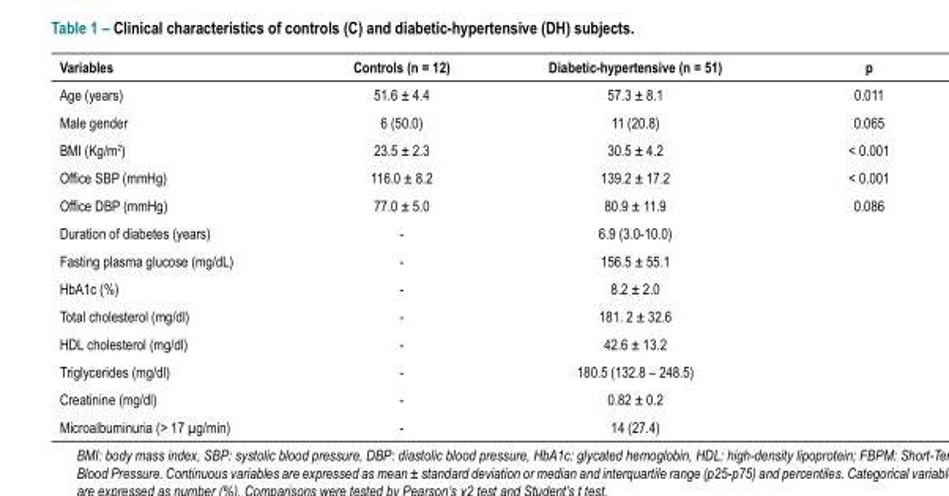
<table><thead><tr><td>Variables</td><td>Controls (n = 12)</td><td>Diabetic-hypertensive (n = 51)</td><td>p</td></tr></thead><tbody><tr><td>Age (years)</td><td>51.6 ± 4.4</td><td>57.3 ± 8.1</td><td>0.011</td></tr><tr><td>Male gender</td><td>6 (50.0)</td><td>11 (20.8)</td><td>0.065</td></tr><tr><td>BMI (Kg/m<sup>2</sup>)</td><td>23.5 ± 2.3</td><td>30.5 ± 4.2</td><td>&lt; 0.001</td></tr><tr><td>Office SBP (mmHg)</td><td>116.0 ± 8.2</td><td>139.2 ± 17.2</td><td>&lt; 0.001</td></tr><tr><td>Office DBP (mmHg)</td><td>77.0 ± 5.0</td><td>80.9 ± 11.9</td><td>0.086</td></tr><tr><td>Duration of diabetes (years)</td><td>-</td><td>6.9 (3.0-10.0)</td><td></td></tr><tr><td>Fasting plasma glucose (mg/dL)</td><td>-</td><td>156.5 ± 55.1</td><td></td></tr><tr><td>HbA1c (%)</td><td>-</td><td>8.2 ± 2.0</td><td></td></tr><tr><td>Total cholesterol (mg/dl)</td><td>-</td><td>181. 2 ± 32.6</td><td></td></tr><tr><td>HDL cholesterol (mg/dl)</td><td>-</td><td>42.6 ± 13.2</td><td></td></tr><tr><td>Triglycerides (mg/dl)</td><td>-</td><td>180.5 (132.8 – 248.5)</td><td></td></tr><tr><td>Creatinine (mg/dl)</td><td>-</td><td>0.82 ± 0.2</td><td></td></tr><tr><td>Microalbuminuria (&gt; 17 µg/min)</td><td>-</td><td>14 (27.4)</td><td></td></tr></tbody></table>